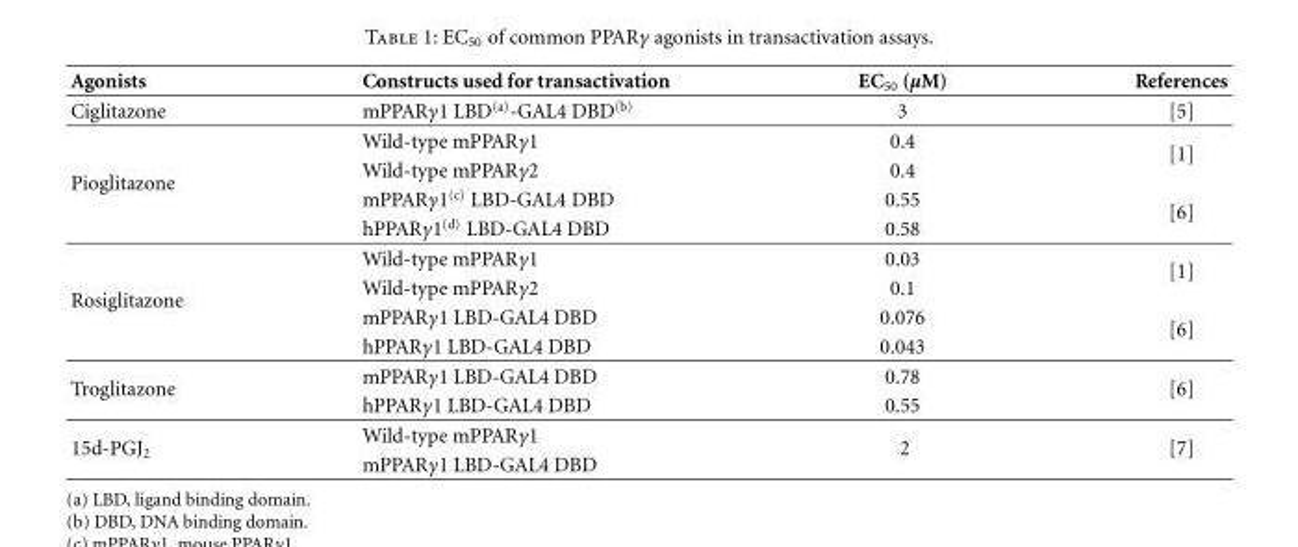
<table><thead><tr><td>Agonists</td><td>Constructs used for transactivation</td><td>EC<sub>50</sub> (μM)</td><td>References</td></tr></thead><tbody><tr><td>Ciglitazone</td><td>mPPARγ1 LBD<sup>(a)</sup>-GAL4 DBD<sup>(b)</sup></td><td>3</td><td>[5]</td></tr><tr><td rowspan="4">Pioglitazone</td><td>Wild-type mPPARγ1</td><td>0.4</td><td rowspan="2">[1]</td></tr><tr><td>Wild-type mPPARγ2</td><td>0.4</td></tr><tr><td>mPPARγ1<sup>(c)</sup> LBD-GAL4 DBD</td><td>0.55</td><td rowspan="2">[6]</td></tr><tr><td>hPPARγ1<sup>(d)</sup> LBD-GAL4 DBD</td><td>0.58</td></tr><tr><td rowspan="4">Rosiglitazone</td><td>Wild-type mPPARγ1</td><td>0.03</td><td rowspan="2">[1]</td></tr><tr><td>Wild-type mPPARγ2</td><td>0.1</td></tr><tr><td>mPPARγ1 LBD-GAL4 DBD</td><td>0.076</td><td rowspan="2">[6]</td></tr><tr><td>hPPARγ1 LBD-GAL4 DBD</td><td>0.043</td></tr><tr><td rowspan="2">Troglitazone</td><td>mPPARγ1 LBD-GAL4 DBD</td><td>0.78</td><td rowspan="2">[6]</td></tr><tr><td>hPPARγ1 LBD-GAL4 DBD</td><td>0.55</td></tr><tr><td rowspan="2">15d-PGJ<sub>2</sub></td><td>Wild-type mPPARγ1</td><td rowspan="2">2</td><td rowspan="2">[7]</td></tr><tr><td>mPPARγ1 LBD-GAL4 DBD</td></tr></tbody></table>